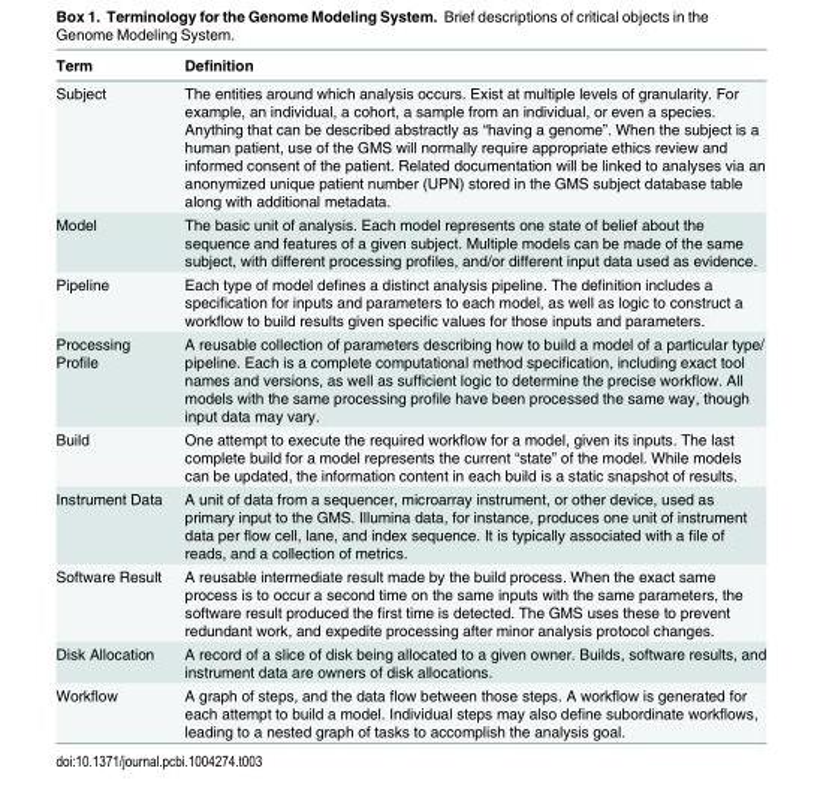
<table><thead><tr><td>Term</td><td>Definition</td></tr></thead><tbody><tr><td>Subject</td><td>The entities around which analysis occurs. Exist at multiple levels of granularity. For example, an individual, a cohort, a sample from an individual, or even a species. Anything that can be described abstractly as “having a genome”. When the subject is a human patient, use of the GMS will normally require appropriate ethics review and informed consent of the patient. Related documentation will be linked to analyses via an anonymized unique patient number (UPN) stored in the GMS subject database table along with additional metadata.</td></tr><tr><td>Model</td><td>The basic unit of analysis. Each model represents one state of belief about the sequence and features of a given subject. Multiple models can be made of the same subject, with different processing profiles, and/or different input data used as evidence.</td></tr><tr><td>Pipeline</td><td>Each type of model defines a distinct analysis pipeline. The definition includes a specification for inputs and parameters to each model, as well as logic to construct a workflow to build results given specific values for those inputs and parameters.</td></tr><tr><td>Processing Profile</td><td>A reusable collection of parameters describing how to build a model of a particular type/ pipeline. Each is a complete computational method specification, including exact tool names and versions, as well as sufficient logic to determine the precise workflow. All models with the same processing profile have been processed the same way, though input data may vary.</td></tr><tr><td>Build</td><td>One attempt to execute the required workflow for a model, given its inputs. The last complete build for a model represents the current “state” of the model. While models can be updated, the information content in each build is a static snapshot of results.</td></tr><tr><td>Instrument Data</td><td>A unit of data from a sequencer, microarray instrument, or other device, used as primary input to the GMS. Illumina data, for instance, produces one unit of instrument data per flow cell, lane, and index sequence. It is typically associated with a file of reads, and a collection of metrics.</td></tr><tr><td>Software Result</td><td>A reusable intermediate result made by the build process. When the exact same process is to occur a second time on the same inputs with the same parameters, the software result produced the first time is detected. The GMS uses these to prevent redundant work, and expedite processing after minor analysis protocol changes.</td></tr><tr><td>Disk Allocation</td><td>A record of a slice of disk being allocated to a given owner. Builds, software results, and instrument data are owners of disk allocations.</td></tr><tr><td>Workflow</td><td>A graph of steps, and the data flow between those steps. A workflow is generated for each attempt to build a model. Individual steps may also define subordinate workflows, leading to a nested graph of tasks to accomplish the analysis goal.</td></tr></tbody></table>